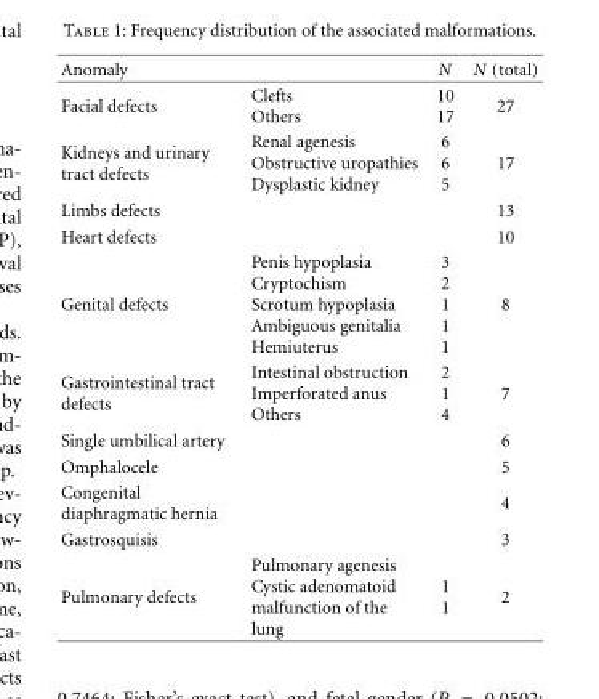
<table><thead><tr><td>Anomaly</td><td></td><td>N</td><td>N (total)</td></tr></thead><tbody><tr><td>Facial defects</td><td>Clefts Others</td><td>10 17</td><td>27</td></tr><tr><td>Kidneys and urinary tract defects</td><td>Renal agenesis Obstructive uropathies Dysplastic kidney</td><td>6 6 5</td><td>17</td></tr><tr><td>Limbs defects</td><td></td><td></td><td>13</td></tr><tr><td>Heart defects</td><td></td><td></td><td>10</td></tr><tr><td>Genital defects</td><td>Penis hypoplasia Cryptochism Scrotum hypoplasia Ambiguous genitalia Hemiuterus</td><td>3 2 1 1 1</td><td>8</td></tr><tr><td>Gastrointestinal tract defects</td><td>Intestinal obstruction Imperforated anus Others</td><td>2 1 4</td><td>7</td></tr><tr><td>Single umbilical artery</td><td></td><td></td><td>6</td></tr><tr><td>Omphalocele</td><td></td><td></td><td>5</td></tr><tr><td>Congenital diaphragmatic hernia</td><td></td><td></td><td>4</td></tr><tr><td>Gastrosquisis</td><td></td><td></td><td>3</td></tr><tr><td>Pulmonary defects</td><td>Pulmonary agenesis Cystic adenomatoid malfunction of the lung</td><td>1 1</td><td>2</td></tr></tbody></table>